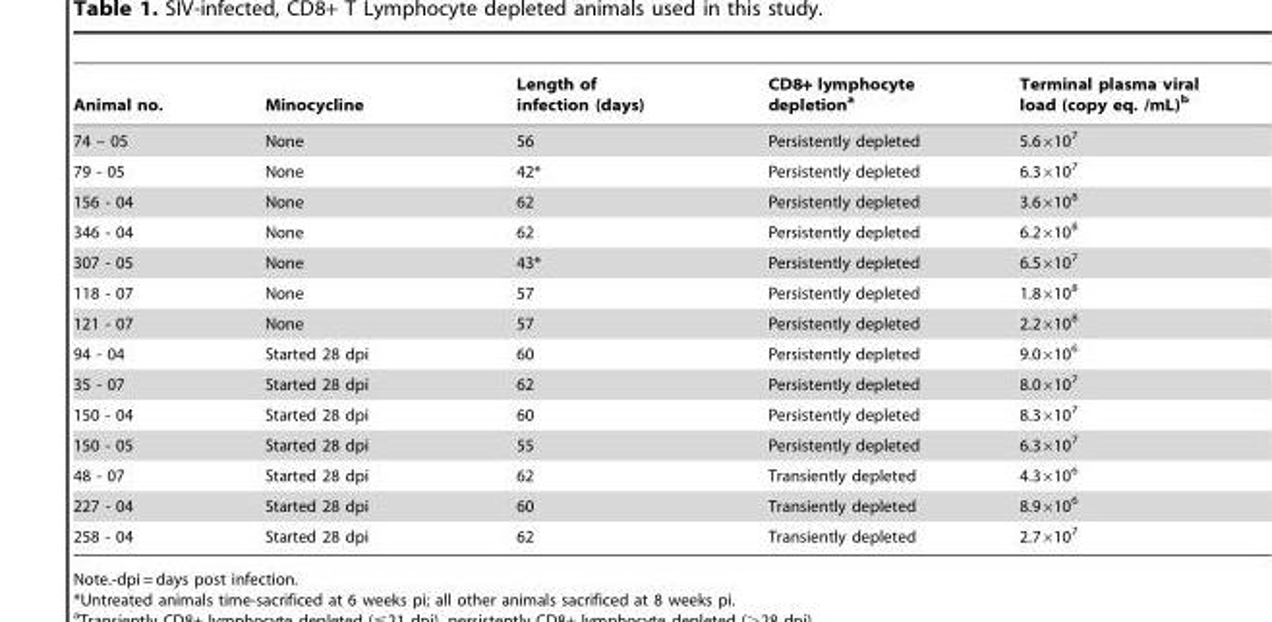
<table><thead><tr><td>Animal no.</td><td>Minocycline</td><td>Length of infection (days)</td><td>CD8+ lymphocyte depletion<sup>a</sup></td><td>Terminal plasma viral load (copy eq. /mL)<sup>b</sup></td></tr></thead><tbody><tr><td>74 – 05</td><td>None</td><td>56</td><td>Persistently depleted</td><td>5.6×10<sup>7</sup></td></tr><tr><td>79 - 05</td><td>None</td><td>42*</td><td>Persistently depleted</td><td>6.3×10<sup>7</sup></td></tr><tr><td>156 - 04</td><td>None</td><td>62</td><td>Persistently depleted</td><td>3.6×10<sup>8</sup></td></tr><tr><td>346 - 04</td><td>None</td><td>62</td><td>Persistently depleted</td><td>6.2×10<sup>8</sup></td></tr><tr><td>307 - 05</td><td>None</td><td>43*</td><td>Persistently depleted</td><td>6.5×10<sup>7</sup></td></tr><tr><td>118 - 07</td><td>None</td><td>57</td><td>Persistently depleted</td><td>1.8×10<sup>8</sup></td></tr><tr><td>121 - 07</td><td>None</td><td>57</td><td>Persistently depleted</td><td>2.2×10<sup>8</sup></td></tr><tr><td>94 - 04</td><td>Started 28 dpi</td><td>60</td><td>Persistently depleted</td><td>9.0×10<sup>6</sup></td></tr><tr><td>35 - 07</td><td>Started 28 dpi</td><td>62</td><td>Persistently depleted</td><td>8.0×10<sup>7</sup></td></tr><tr><td>150 - 04</td><td>Started 28 dpi</td><td>60</td><td>Persistently depleted</td><td>8.3×10<sup>7</sup></td></tr><tr><td>150 - 05</td><td>Started 28 dpi</td><td>55</td><td>Persistently depleted</td><td>6.3×10<sup>7</sup></td></tr><tr><td>48 - 07</td><td>Started 28 dpi</td><td>62</td><td>Transiently depleted</td><td>4.3×10<sup>6</sup></td></tr><tr><td>227 - 04</td><td>Started 28 dpi</td><td>60</td><td>Transiently depleted</td><td>8.9×10<sup>6</sup></td></tr><tr><td>258 - 04</td><td>Started 28 dpi</td><td>62</td><td>Transiently depleted</td><td>2.7×10<sup>7</sup></td></tr></tbody></table>